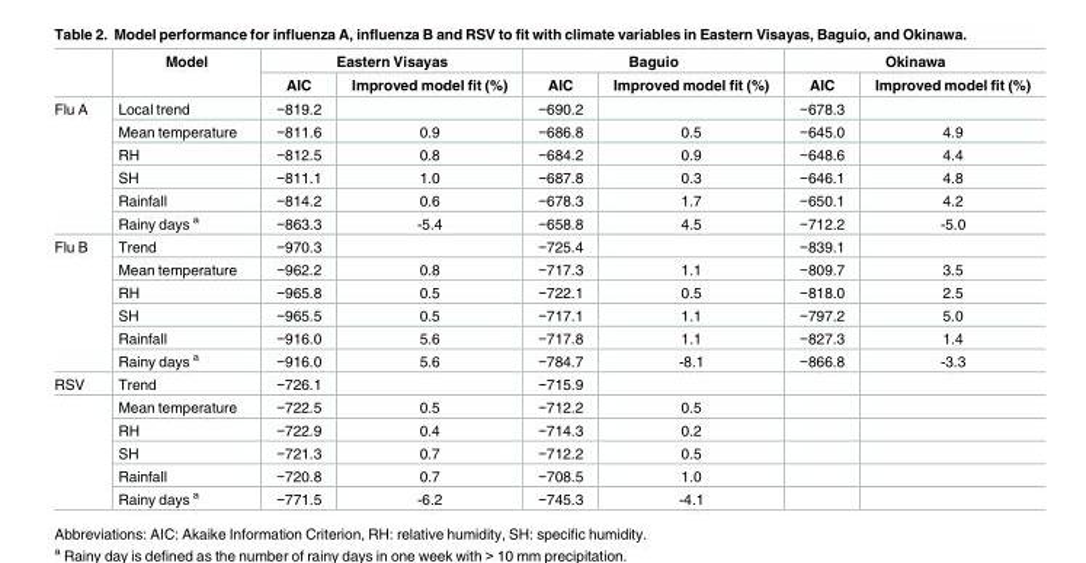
<table><thead><tr><td rowspan="2"></td><td rowspan="2">Model</td><td colspan="2">Eastern Visayas</td><td colspan="2">Baguio</td><td colspan="2">Okinawa</td></tr><tr><td>AIC</td><td>Improved model fit (%)</td><td>AIC</td><td>Improved model fit (%)</td><td>AIC</td><td>Improved model fit (%)</td></tr></thead><tbody><tr><td rowspan="6">Flu A</td><td>Local trend</td><td>−819.2</td><td></td><td>−690.2</td><td></td><td>−678.3</td><td></td></tr><tr><td>Mean temperature</td><td>−811.6</td><td>0.9</td><td>−686.8</td><td>0.5</td><td>−645.0</td><td>4.9</td></tr><tr><td>RH</td><td>−812.5</td><td>0.8</td><td>−684.2</td><td>0.9</td><td>−648.6</td><td>4.4</td></tr><tr><td>SH</td><td>−811.1</td><td>1.0</td><td>−687.8</td><td>0.3</td><td>−646.1</td><td>4.8</td></tr><tr><td>Rainfall</td><td>−814.2</td><td>0.6</td><td>−678.3</td><td>1.7</td><td>−650.1</td><td>4.2</td></tr><tr><td>Rainy days <sup>a</sup></td><td>−863.3</td><td>-5.4</td><td>−658.8</td><td>4.5</td><td>−712.2</td><td>-5.0</td></tr><tr><td rowspan="6">Flu B</td><td>Trend</td><td>−970.3</td><td></td><td>−725.4</td><td></td><td>−839.1</td><td></td></tr><tr><td>Mean temperature</td><td>−962.2</td><td>0.8</td><td>−717.3</td><td>1.1</td><td>−809.7</td><td>3.5</td></tr><tr><td>RH</td><td>−965.8</td><td>0.5</td><td>−722.1</td><td>0.5</td><td>−818.0</td><td>2.5</td></tr><tr><td>SH</td><td>−965.5</td><td>0.5</td><td>−717.1</td><td>1.1</td><td>−797.2</td><td>5.0</td></tr><tr><td>Rainfall</td><td>−916.0</td><td>5.6</td><td>−717.8</td><td>1.1</td><td>−827.3</td><td>1.4</td></tr><tr><td>Rainy days <sup>a</sup></td><td>−916.0</td><td>5.6</td><td>−784.7</td><td>-8.1</td><td>−866.8</td><td>-3.3</td></tr><tr><td rowspan="6">RSV</td><td>Trend</td><td>−726.1</td><td></td><td>−715.9</td><td></td><td></td><td></td></tr><tr><td>Mean temperature</td><td>−722.5</td><td>0.5</td><td>−712.2</td><td>0.5</td><td></td><td></td></tr><tr><td>RH</td><td>−722.9</td><td>0.4</td><td>−714.3</td><td>0.2</td><td></td><td></td></tr><tr><td>SH</td><td>−721.3</td><td>0.7</td><td>−712.2</td><td>0.5</td><td></td><td></td></tr><tr><td>Rainfall</td><td>−720.8</td><td>0.7</td><td>−708.5</td><td>1.0</td><td></td><td></td></tr><tr><td>Rainy days <sup>a</sup></td><td>−771.5</td><td>-6.2</td><td>−745.3</td><td>-4.1</td><td></td><td></td></tr></tbody></table>